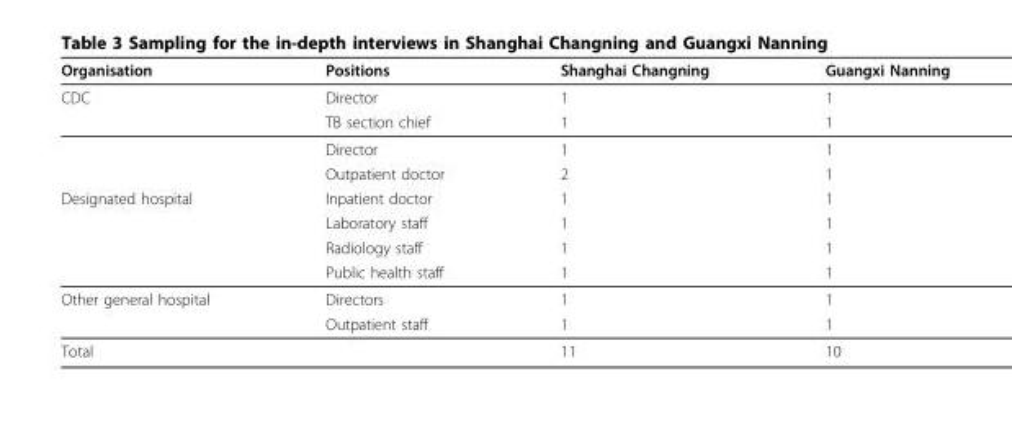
<table><thead><tr><td>Organisation</td><td>Positions</td><td>Shanghai Changning</td><td>Guangxi Nanning</td></tr></thead><tbody><tr><td rowspan="4">CDC</td><td>Director</td><td>1</td><td>1</td></tr><tr><td>TB section chief</td><td>1</td><td>1</td></tr><tr><td>Director</td><td>1</td><td>1</td></tr><tr><td>Outpatient doctor</td><td>2</td><td>1</td></tr><tr><td rowspan="4">Designated hospital</td><td>Inpatient doctor</td><td>1</td><td>1</td></tr><tr><td>Laboratory staff</td><td>1</td><td>1</td></tr><tr><td>Radiology staff</td><td>1</td><td>1</td></tr><tr><td>Public health staff</td><td>1</td><td>1</td></tr><tr><td rowspan="2">Other general hospital</td><td>Directors</td><td>1</td><td>1</td></tr><tr><td>Outpatient staff</td><td>1</td><td>1</td></tr><tr><td>Total</td><td></td><td>11</td><td>10</td></tr></tbody></table>